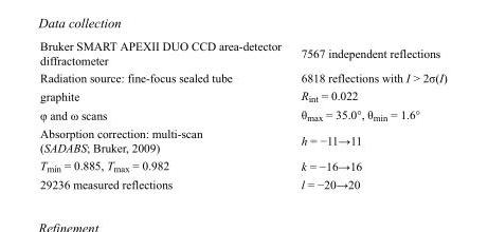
<table><tbody><tr><td>Bruker SMART APEXII DUO CCD area-detector diffractometer</td><td>7567 independent reflections</td></tr><tr><td>Radiation source: fine-focus sealed tube</td><td>6818 reflections with I &gt; 2σ(I)</td></tr><tr><td>graphite</td><td>R<sub>int</sub> = 0.022</td></tr><tr><td>φ and ω scans</td><td>θ<sub>max</sub> = 35.0°, θ<sub>min</sub> = 1.6°</td></tr><tr><td>Absorption correction: multi-scan (SADABS; Bruker, 2009)</td><td>h = −11→11</td></tr><tr><td>T<sub>min</sub> = 0.885, T<sub>max</sub> = 0.982</td><td>k = −16→16</td></tr><tr><td>29236 measured reflections</td><td>l = −20→20</td></tr></tbody></table>